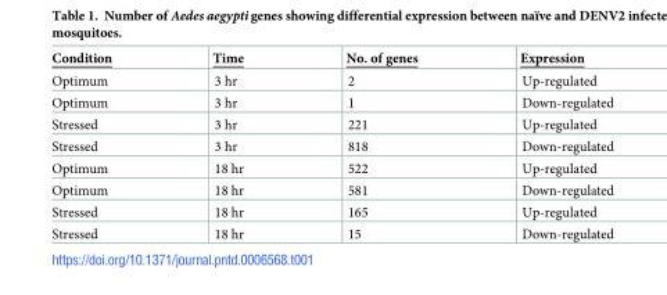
<table><thead><tr><td>Condition</td><td>Time</td><td>No. of genes</td><td>Expression</td></tr></thead><tbody><tr><td>Optimum</td><td>3 hr</td><td>2</td><td>Up-regulated</td></tr><tr><td>Optimum</td><td>3 hr</td><td>1</td><td>Down-regulated</td></tr><tr><td>Stressed</td><td>3 hr</td><td>221</td><td>Up-regulated</td></tr><tr><td>Stressed</td><td>3 hr</td><td>818</td><td>Down-regulated</td></tr><tr><td>Optimum</td><td>18 hr</td><td>522</td><td>Up-regulated</td></tr><tr><td>Optimum</td><td>18 hr</td><td>581</td><td>Down-regulated</td></tr><tr><td>Stressed</td><td>18 hr</td><td>165</td><td>Up-regulated</td></tr><tr><td>Stressed</td><td>18 hr</td><td>15</td><td>Down-regulated</td></tr></tbody></table>